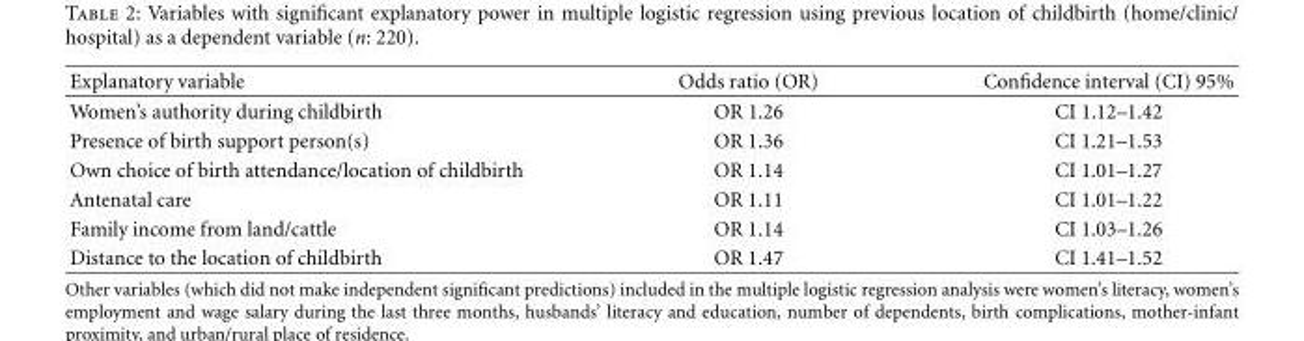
<table><thead><tr><td>Explanatory variable</td><td>Odds ratio (OR)</td><td>Confidence interval (CI) 95%</td></tr></thead><tbody><tr><td>Women’s authority during childbirth</td><td>OR 1.26</td><td>CI 1.12–1.42</td></tr><tr><td>Presence of birth support person(s)</td><td>OR 1.36</td><td>CI 1.21–1.53</td></tr><tr><td>Own choice of birth attendance/location of childbirth</td><td>OR 1.14</td><td>CI 1.01–1.27</td></tr><tr><td>Antenatal care</td><td>OR 1.11</td><td>CI 1.01–1.22</td></tr><tr><td>Family income from land/cattle</td><td>OR 1.14</td><td>CI 1.03–1.26</td></tr><tr><td>Distance to the location of childbirth</td><td>OR 1.47</td><td>CI 1.41–1.52</td></tr></tbody></table>